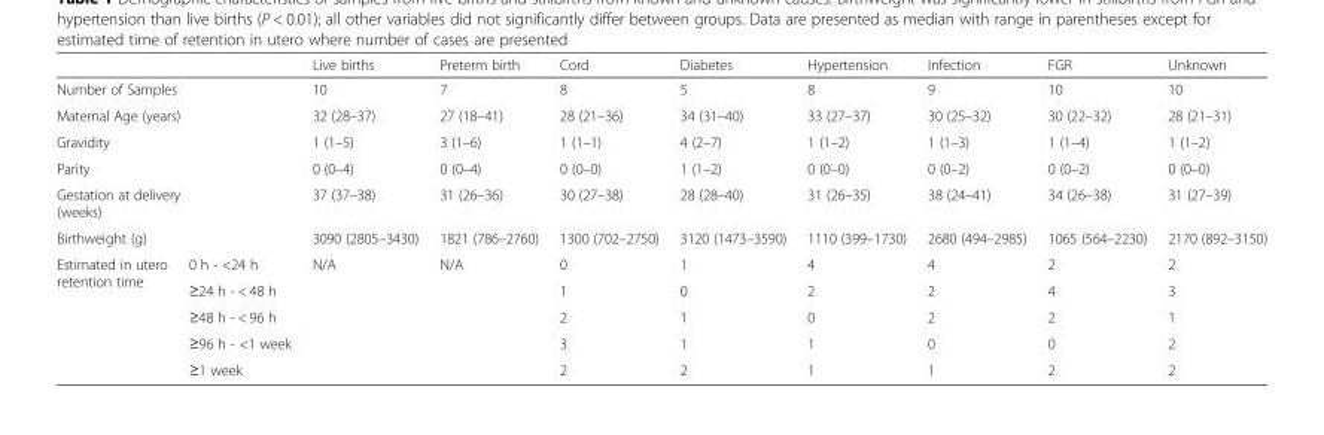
<table><thead><tr><td></td><td></td><td>Live births</td><td>Preterm birth</td><td>Cord</td><td>Diabetes</td><td>Hypertension</td><td>Infection</td><td>FGR</td><td>Unknown</td></tr></thead><tbody><tr><td colspan="2">Number of Samples</td><td>10</td><td>7</td><td>8</td><td>5</td><td>8</td><td>9</td><td>10</td><td>10</td></tr><tr><td colspan="2">Maternal Age (years)</td><td>32 (28–37)</td><td>27 (18–41)</td><td>28 (21–36)</td><td>34 (31–40)</td><td>33 (27–37)</td><td>30 (25–32)</td><td>30 (22–32)</td><td>28 (21–31)</td></tr><tr><td colspan="2">Gravidity</td><td>1 (1–5)</td><td>3 (1–6)</td><td>1 (1–1)</td><td>4 (2–7)</td><td>1 (1–2)</td><td>1 (1–3)</td><td>1 (1–4)</td><td>1 (1–2)</td></tr><tr><td colspan="2">Parity</td><td>0 (0–4)</td><td>0 (0–4)</td><td>0 (0–0)</td><td>1 (1–2)</td><td>0 (0–0)</td><td>0 (0–2)</td><td>0 (0–2)</td><td>0 (0–0)</td></tr><tr><td colspan="2">Gestation at delivery (weeks)</td><td>37 (37–38)</td><td>31 (26–36)</td><td>30 (27–38)</td><td>28 (28–40)</td><td>31 (26–35)</td><td>38 (24–41)</td><td>34 (26–38)</td><td>31 (27–39)</td></tr><tr><td colspan="2">Birthweight (g)</td><td>3090 (2805–3430)</td><td>1821 (786–2760)</td><td>1300 (702–2750)</td><td>3120 (1473–3590)</td><td>1110 (399–1730)</td><td>2680 (494–2985)</td><td>1065 (564–2230)</td><td>2170 (892–3150)</td></tr><tr><td rowspan="5">Estimated in utero retention time</td><td>0 h - &lt;24 h</td><td rowspan="5">N/A</td><td rowspan="5">N/A</td><td>0</td><td>1</td><td>4</td><td>4</td><td>2</td><td>2</td></tr><tr><td>≥24 h - &lt; 48 h</td><td>1</td><td>0</td><td>2</td><td>2</td><td>4</td><td>3</td></tr><tr><td>≥48 h - &lt; 96 h</td><td>2</td><td>1</td><td>0</td><td>2</td><td>2</td><td>1</td></tr><tr><td>≥96 h - &lt;1 week</td><td>3</td><td>1</td><td>1</td><td>0</td><td>0</td><td>2</td></tr><tr><td>≥1 week</td><td>2</td><td>2</td><td>1</td><td>1</td><td>2</td><td>2</td></tr></tbody></table>